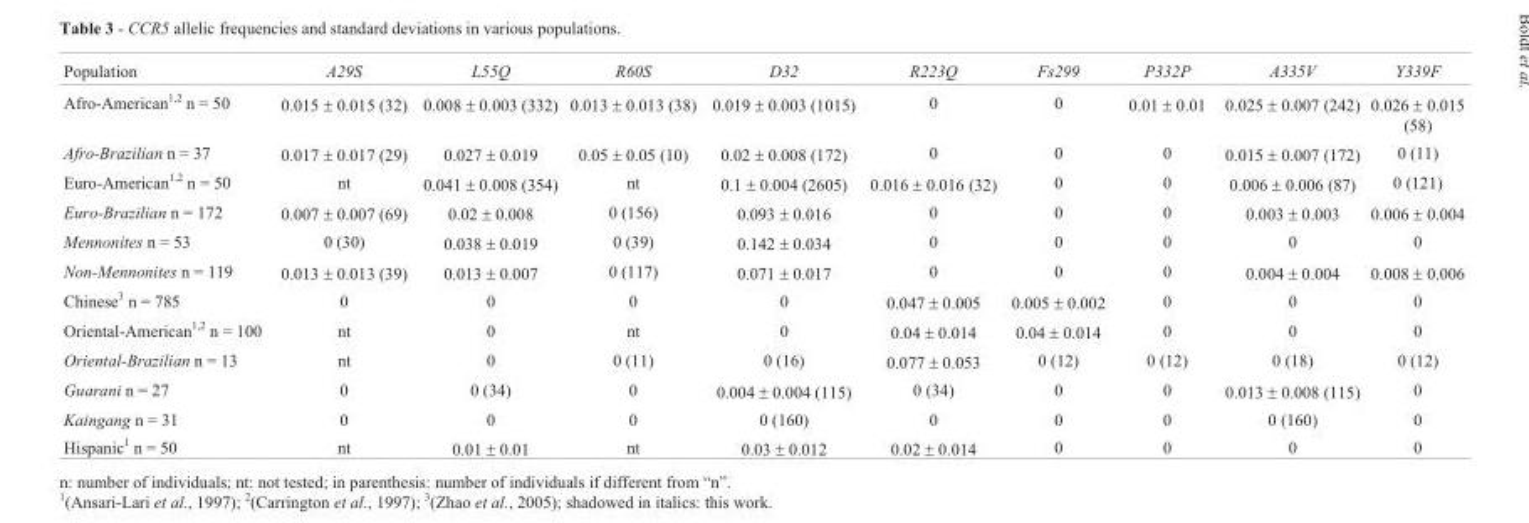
<table><thead><tr><td>Population</td><td>A29S</td><td>L55Q</td><td>R60S</td><td>D32</td><td>R223Q</td><td>Fs299</td><td>P332P</td><td>A335V</td><td>Y339F</td></tr></thead><tbody><tr><td>Afro-American<sup>1,2</sup> n = 50</td><td>0.015 ± 0.015 (32)</td><td>0.008 ± 0.003 (332)</td><td>0.013 ± 0.013 (38)</td><td>0.019 ± 0.003 (1015)</td><td>0</td><td>0</td><td>0.01 ± 0.01</td><td>0.025 ± 0.007 (242)</td><td>0.026 ± 0.015 (58)</td></tr><tr><td>Afro-Brazilian n = 37</td><td>0.017 ± 0.017 (29)</td><td>0.027 ± 0.019</td><td>0.05 ± 0.05 (10)</td><td>0.02 ± 0.008 (172)</td><td>0</td><td>0</td><td>0</td><td>0.015 ± 0.007 (172)</td><td>0 (11)</td></tr><tr><td>Euro-American<sup>1,2</sup> n = 50</td><td>nt</td><td>0.041 ± 0.008 (354)</td><td>nt</td><td>0.1 ± 0.004 (2605)</td><td>0.016 ± 0.016 (32)</td><td>0</td><td>0</td><td>0.006 ± 0.006 (87)</td><td>0 (121)</td></tr><tr><td>Euro-Brazilian n = 172</td><td>0.007 ± 0.007 (69)</td><td>0.02 ± 0.008</td><td>0 (156)</td><td>0.093 ± 0.016</td><td>0</td><td>0</td><td>0</td><td>0.003 ± 0.003</td><td>0.006 ± 0.004</td></tr><tr><td>Mennonites n = 53</td><td>0 (30)</td><td>0.038 ± 0.019</td><td>0 (39)</td><td>0.142 ± 0.034</td><td>0</td><td>0</td><td>0</td><td>0</td><td>0</td></tr><tr><td>Non-Mennonites n = 119</td><td>0.013 ± 0.013 (39)</td><td>0.013 ± 0.007</td><td>0 (117)</td><td>0.071 ± 0.017</td><td>0</td><td>0</td><td>0</td><td>0.004 ± 0.004</td><td>0.008 ± 0.006</td></tr><tr><td>Chinese<sup>3</sup> n = 785</td><td>0</td><td>0</td><td>0</td><td>0</td><td>0.047 ± 0.005</td><td>0.005 ± 0.002</td><td>0</td><td>0</td><td>0</td></tr><tr><td>Oriental-American<sup>1,2</sup> n = 100</td><td>nt</td><td>0</td><td>nt</td><td>0</td><td>0.04 ± 0.014</td><td>0.04 ± 0.014</td><td>0</td><td>0</td><td>0</td></tr><tr><td>Oriental-Brazilian n = 13</td><td>nt</td><td>0</td><td>0 (11)</td><td>0 (16)</td><td>0.077 ± 0.053</td><td>0 (12)</td><td>0 (12)</td><td>0 (18)</td><td>0 (12)</td></tr><tr><td>Guarani n = 27</td><td>0</td><td>0 (34)</td><td>0</td><td>0.004 ± 0.004 (115)</td><td>0 (34)</td><td>0</td><td>0</td><td>0.013 ± 0.008 (115)</td><td>0</td></tr><tr><td>Kaingang n = 31</td><td>0</td><td>0</td><td>0</td><td>0 (160)</td><td>0</td><td>0</td><td>0</td><td>0 (160)</td><td>0</td></tr><tr><td>Hispanic<sup>1</sup> n = 50</td><td>nt</td><td>0.01 ± 0.01</td><td>nt</td><td>0.03 ± 0.012</td><td>0.02 ± 0.014</td><td>0</td><td>0</td><td>0</td><td>0</td></tr></tbody></table>